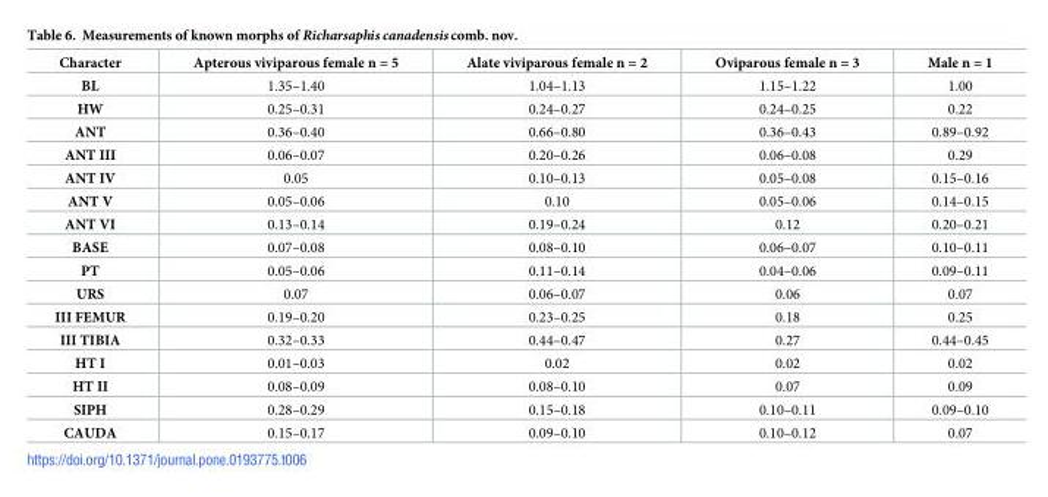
<table><thead><tr><td>Character</td><td>Apterous viviparous female n = 5</td><td>Alate viviparous female n = 2</td><td>Oviparous female n = 3</td><td>Male n = 1</td></tr></thead><tbody><tr><td>BL</td><td>1.35–1.40</td><td>1.04–1.13</td><td>1.15–1.22</td><td>1.00</td></tr><tr><td>HW</td><td>0.25–0.31</td><td>0.24–0.27</td><td>0.24–0.25</td><td>0.22</td></tr><tr><td>ANT</td><td>0.36–0.40</td><td>0.66–0.80</td><td>0.36–0.43</td><td>0.89–0.92</td></tr><tr><td>ANT III</td><td>0.06–0.07</td><td>0.20–0.26</td><td>0.06–0.08</td><td>0.29</td></tr><tr><td>ANT IV</td><td>0.05</td><td>0.10–0.13</td><td>0.05–0.08</td><td>0.15–0.16</td></tr><tr><td>ANT V</td><td>0.05–0.06</td><td>0.10</td><td>0.05–0.06</td><td>0.14–0.15</td></tr><tr><td>ANT VI</td><td>0.13–0.14</td><td>0.19–0.24</td><td>0.12</td><td>0.20–0.21</td></tr><tr><td>BASE</td><td>0.07–0.08</td><td>0.08–0.10</td><td>0.06–0.07</td><td>0.10–0.11</td></tr><tr><td>PT</td><td>0.05–0.06</td><td>0.11–0.14</td><td>0.04–0.06</td><td>0.09–0.11</td></tr><tr><td>URS</td><td>0.07</td><td>0.06–0.07</td><td>0.06</td><td>0.07</td></tr><tr><td>III FEMUR</td><td>0.19–0.20</td><td>0.23–0.25</td><td>0.18</td><td>0.25</td></tr><tr><td>III TIBIA</td><td>0.32–0.33</td><td>0.44–0.47</td><td>0.27</td><td>0.44–0.45</td></tr><tr><td>HT I</td><td>0.01–0.03</td><td>0.02</td><td>0.02</td><td>0.02</td></tr><tr><td>HT II</td><td>0.08–0.09</td><td>0.08–0.10</td><td>0.07</td><td>0.09</td></tr><tr><td>SIPH</td><td>0.28–0.29</td><td>0.15–0.18</td><td>0.10–0.11</td><td>0.09–0.10</td></tr><tr><td>CAUDA</td><td>0.15–0.17</td><td>0.09–0.10</td><td>0.10–0.12</td><td>0.07</td></tr></tbody></table>